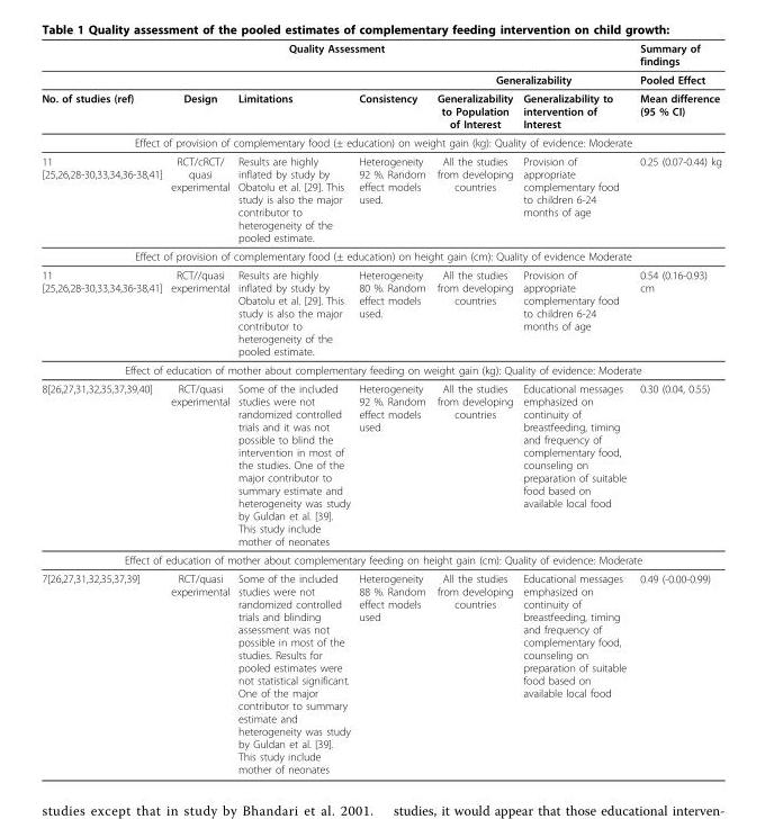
<table><thead><tr><td colspan="6">Quality Assessment</td><td rowspan="3">Summary of findings Pooled Effect Mean difference (95 % CI)</td></tr><tr><td rowspan="2">No. of studies (ref)</td><td rowspan="2">Design</td><td rowspan="2">Limitations</td><td rowspan="2">Consistency</td><td colspan="2">Generalizability</td></tr><tr><td>Generalizability to Population of Interest</td><td>Generalizability to intervention of Interest</td></tr></thead><tbody><tr><td colspan="7">Effect of provision of complementary food (± education) on weight gain (kg): Quality of evidence: Moderate</td></tr><tr><td>11 [25,26,28-30,33,34,36-38,41]</td><td>RCT/cRCT/ quasi experimental</td><td>Results are highly inflated by study by Obatolu et al. [29]. This study is also the major contributor to heterogeneity of the pooled estimate.</td><td>Heterogeneity 92 %. Random effect models used.</td><td>All the studies from developing countries</td><td>Provision of appropriate complementary food to children 6-24 months of age</td><td>0.25 (0.07-0.44) kg</td></tr><tr><td colspan="7">Effect of provision of complementary food (± education) on height gain (cm): Quality of evidence Moderate</td></tr><tr><td>11 [25,26,28-30,33,34,36-38,41]</td><td>RCT//quasi experimental</td><td>Results are highly inflated by study by Obatolu et al. [29]. This study is also the major contributor to heterogeneity of the pooled estimate.</td><td>Heterogeneity 80 %. Random effect models used.</td><td>All the studies from developing countries</td><td>Provision of appropriate complementary food to children 6-24 months of age</td><td>0.54 (0.16-0.93) cm</td></tr><tr><td colspan="7">Effect of education of mother about complementary feeding on weight gain (kg): Quality of evidence: Moderate</td></tr><tr><td>8[26,27,31,32,35,37,39,40]</td><td>RCT/quasi experimental</td><td>Some of the included studies were not randomized controlled trials and it was not possible to blind the intervention in most of the studies. One of the major contributor to summary estimate and heterogeneity was study by Guldan et al. [39]. This study include mother of neonates</td><td>Heterogeneity 92 %. Random effect models used</td><td>All the studies from developing countries</td><td>Educational messages emphasized on continuity of breastfeeding, timing and frequency of complementary food, counseling on preparation of suitable food based on available local food</td><td>0.30 (0.04, 0.55)</td></tr><tr><td colspan="7">Effect of education of mother about complementary feeding on height gain (cm): Quality of evidence: Moderate</td></tr><tr><td>7[26,27,31,32,35,37,39]</td><td>RCT/quasi experimental</td><td>Some of the included studies were not randomized controlled trials and blinding assessment was not possible in most of the studies. Results for pooled estimates were not statistical significant. One of the major contributor to summary estimate and heterogeneity was study by Guldan et al. [39]. This study include mother of neonates</td><td>Heterogeneity 88 %. Random effect models used</td><td>All the studies from developing countries</td><td>Educational messages emphasized on continuity of breastfeeding, timing and frequency of complementary food, counseling on preparation of suitable food based on available local food</td><td>0.49 (-0.00-0.99)</td></tr></tbody></table>